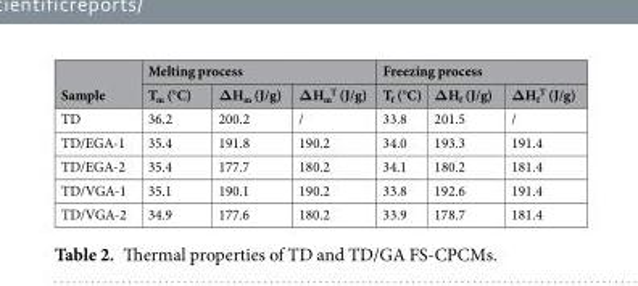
<table><thead><tr><td rowspan="2">Sample</td><td colspan="3">Melting process</td><td colspan="3">Freezing process</td></tr><tr><td>T<sub>m</sub> (°C)</td><td>ΔH<sub>m</sub> (J/g)</td><td>ΔH<sub>m</sub> <sup>T</sup> (J/g)</td><td>T<sub>f</sub> (°C)</td><td>ΔH<sub>f</sub> (J/g)</td><td>ΔH<sub>f</sub> <sup>T</sup> (J/g)</td></tr></thead><tbody><tr><td>TD</td><td>36.2</td><td>200.2</td><td>/</td><td>33.8</td><td>201.5</td><td>/</td></tr><tr><td>TD/EGA-1</td><td>35.4</td><td>191.8</td><td>190.2</td><td>34.0</td><td>193.3</td><td>191.4</td></tr><tr><td>TD/EGA-2</td><td>35.4</td><td>177.7</td><td>180.2</td><td>34.1</td><td>180.2</td><td>181.4</td></tr><tr><td>TD/VGA-1</td><td>35.1</td><td>190.1</td><td>190.2</td><td>33.8</td><td>192.6</td><td>191.4</td></tr><tr><td>TD/VGA-2</td><td>34.9</td><td>177.6</td><td>180.2</td><td>33.9</td><td>178.7</td><td>181.4</td></tr></tbody></table>